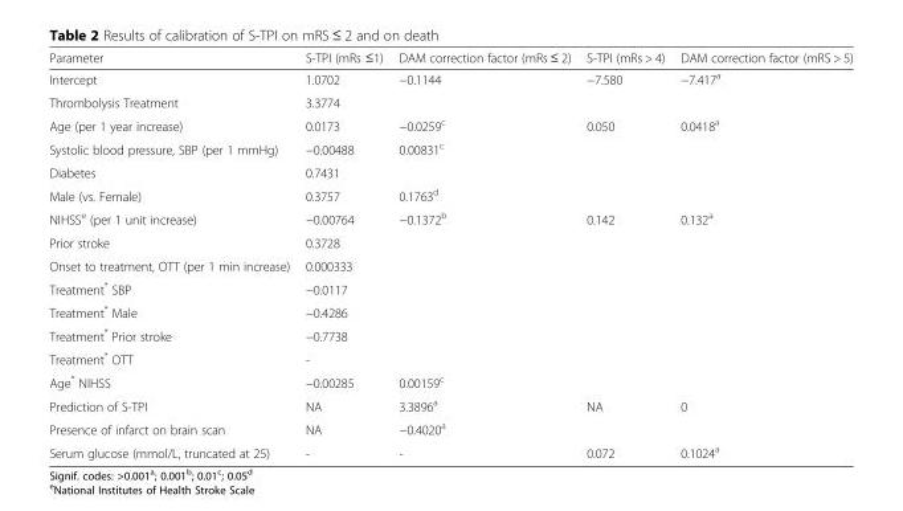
<table><thead><tr><td>Parameter</td><td>S-TPI (mRs ≤1)</td><td>DAM correction factor (mRs ≤ 2)</td><td>S-TPI (mRs &gt; 4)</td><td>DAM correction factor (mRS &gt; 5)</td></tr></thead><tbody><tr><td>Intercept</td><td>1.0702</td><td>−0.1144</td><td>−7.580</td><td>−7.417<sup>a</sup></td></tr><tr><td>Thrombolysis Treatment</td><td>3.3774</td><td></td><td></td><td></td></tr><tr><td>Age (per 1 year increase)</td><td>0.0173</td><td>−0.0259<sup>c</sup></td><td>0.050</td><td>0.0418<sup>a</sup></td></tr><tr><td>Systolic blood pressure, SBP (per 1 mmHg)</td><td>−0.00488</td><td>0.00831<sup>c</sup></td><td></td><td></td></tr><tr><td>Diabetes</td><td>0.7431</td><td></td><td></td><td></td></tr><tr><td>Male (vs. Female)</td><td>0.3757</td><td>0.1763<sup>d</sup></td><td></td><td></td></tr><tr><td>NIHSS<sup>e</sup> (per 1 unit increase)</td><td>−0.00764</td><td>−0.1372<sup>b</sup></td><td>0.142</td><td>0.132<sup>a</sup></td></tr><tr><td>Prior stroke</td><td>0.3728</td><td></td><td></td><td></td></tr><tr><td>Onset to treatment, OTT (per 1 min increase)</td><td>0.000333</td><td></td><td></td><td></td></tr><tr><td>Treatment* SBP</td><td>−0.0117</td><td></td><td></td><td></td></tr><tr><td>Treatment* Male</td><td>−0.4286</td><td></td><td></td><td></td></tr><tr><td>Treatment* Prior stroke</td><td>−0.7738</td><td></td><td></td><td></td></tr><tr><td>Treatment* OTT</td><td>-</td><td></td><td></td><td></td></tr><tr><td>Age* NIHSS</td><td>−0.00285</td><td>0.00159<sup>c</sup></td><td></td><td></td></tr><tr><td>Prediction of S-TPI</td><td>NA</td><td>3.3896<sup>a</sup></td><td>NA</td><td>0</td></tr><tr><td>Presence of infarct on brain scan</td><td>NA</td><td>−0.4020<sup>a</sup></td><td></td><td></td></tr><tr><td>Serum glucose (mmol/L, truncated at 25)</td><td>-</td><td>-</td><td>0.072</td><td>0.1024<sup>a</sup></td></tr></tbody></table>